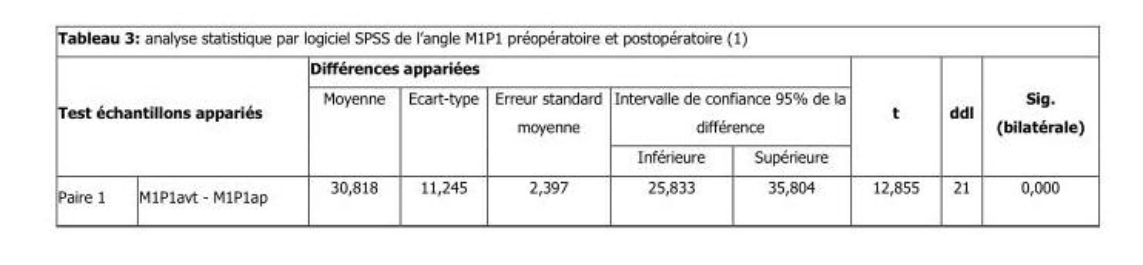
<table><thead><tr><td rowspan="3" colspan="2">Test échantillons appariés</td><td colspan="5">Différences appariées</td><td rowspan="4">t 12,855</td><td rowspan="4">ddl 21</td><td rowspan="4">Sig. (bilatérale) 0,000</td></tr><tr><td rowspan="3">Moyenne 30,818</td><td rowspan="3">Ecart-type 11,245</td><td rowspan="3">Erreur standard moyenne 2,397</td><td colspan="2">Intervalle de confiance 95% de la différence</td></tr><tr><td rowspan="2">Inférieure 25,833</td><td rowspan="2">Supérieure 35,804</td></tr><tr><td>Paire 1</td><td>M1P1avt - M1P1ap</td></tr></thead><tbody></tbody></table>